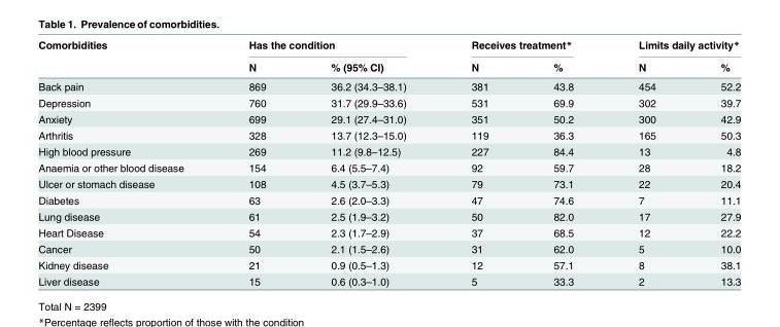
<table><thead><tr><td rowspan="2">Comorbidities</td><td colspan="2">Has the condition</td><td colspan="2">Receives treatment*</td><td colspan="2">Limits daily activity*</td></tr><tr><td>N</td><td>% (95% CI)</td><td>N</td><td>%</td><td>N</td><td>%</td></tr></thead><tbody><tr><td>Back pain</td><td>869</td><td>36.2 (34.3–38.1)</td><td>381</td><td>43.8</td><td>454</td><td>52.2</td></tr><tr><td>Depression</td><td>760</td><td>31.7 (29.9–33.6)</td><td>531</td><td>69.9</td><td>302</td><td>39.7</td></tr><tr><td>Anxiety</td><td>699</td><td>29.1 (27.4–31.0)</td><td>351</td><td>50.2</td><td>300</td><td>42.9</td></tr><tr><td>Arthritis</td><td>328</td><td>13.7 (12.3–15.0)</td><td>119</td><td>36.3</td><td>165</td><td>50.3</td></tr><tr><td>High blood pressure</td><td>269</td><td>11.2 (9.8–12.5)</td><td>227</td><td>84.4</td><td>13</td><td>4.8</td></tr><tr><td>Anaemia or other blood disease</td><td>154</td><td>6.4 (5.5–7.4)</td><td>92</td><td>59.7</td><td>28</td><td>18.2</td></tr><tr><td>Ulcer or stomach disease</td><td>108</td><td>4.5 (3.7–5.3)</td><td>79</td><td>73.1</td><td>22</td><td>20.4</td></tr><tr><td>Diabetes</td><td>63</td><td>2.6 (2.0–3.3)</td><td>47</td><td>74.6</td><td>7</td><td>11.1</td></tr><tr><td>Lung disease</td><td>61</td><td>2.5 (1.9–3.2)</td><td>50</td><td>82.0</td><td>17</td><td>27.9</td></tr><tr><td>Heart Disease</td><td>54</td><td>2.3 (1.7–2.9)</td><td>37</td><td>68.5</td><td>12</td><td>22.2</td></tr><tr><td>Cancer</td><td>50</td><td>2.1 (1.5–2.6)</td><td>31</td><td>62.0</td><td>5</td><td>10.0</td></tr><tr><td>Kidney disease</td><td>21</td><td>0.9 (0.5–1.3)</td><td>12</td><td>57.1</td><td>8</td><td>38.1</td></tr><tr><td>Liver disease</td><td>15</td><td>0.6 (0.3–1.0)</td><td>5</td><td>33.3</td><td>2</td><td>13.3</td></tr></tbody></table>